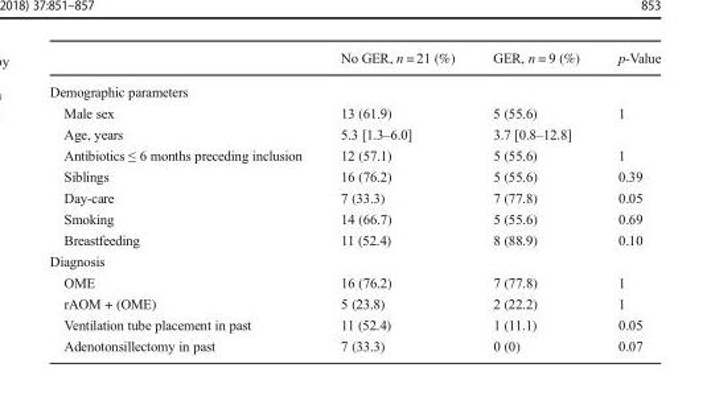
<table><thead><tr><td></td><td>No GER, n = 21 (%)</td><td>GER, n = 9 (%)</td><td>p-Value</td></tr></thead><tbody><tr><td colspan="4">Demographic parameters</td></tr><tr><td>Male sex</td><td>13 (61.9)</td><td>5 (55.6)</td><td>1</td></tr><tr><td>Age, years</td><td>5.3 [1.3–6.0]</td><td>3.7 [0.8–12.8]</td><td></td></tr><tr><td>Antibiotics ≤ 6 months preceding inclusion</td><td>12 (57.1)</td><td>5 (55.6)</td><td>1</td></tr><tr><td>Siblings</td><td>16 (76.2)</td><td>5 (55.6)</td><td>0.39</td></tr><tr><td>Day-care</td><td>7 (33.3)</td><td>7 (77.8)</td><td>0.05</td></tr><tr><td>Smoking</td><td>14 (66.7)</td><td>5 (55.6)</td><td>0.69</td></tr><tr><td>Breastfeeding</td><td>11 (52.4)</td><td>8 (88.9)</td><td>0.10</td></tr><tr><td colspan="4">Diagnosis</td></tr><tr><td>OME</td><td>16 (76.2)</td><td>7 (77.8)</td><td>1</td></tr><tr><td>rAOM + (OME)</td><td>5 (23.8)</td><td>2 (22.2)</td><td>1</td></tr><tr><td>Ventilation tube placement in past</td><td>11 (52.4)</td><td>1 (11.1)</td><td>0.05</td></tr><tr><td>Adenotonsillectomy in past</td><td>7 (33.3)</td><td>0 (0)</td><td>0.07</td></tr></tbody></table>